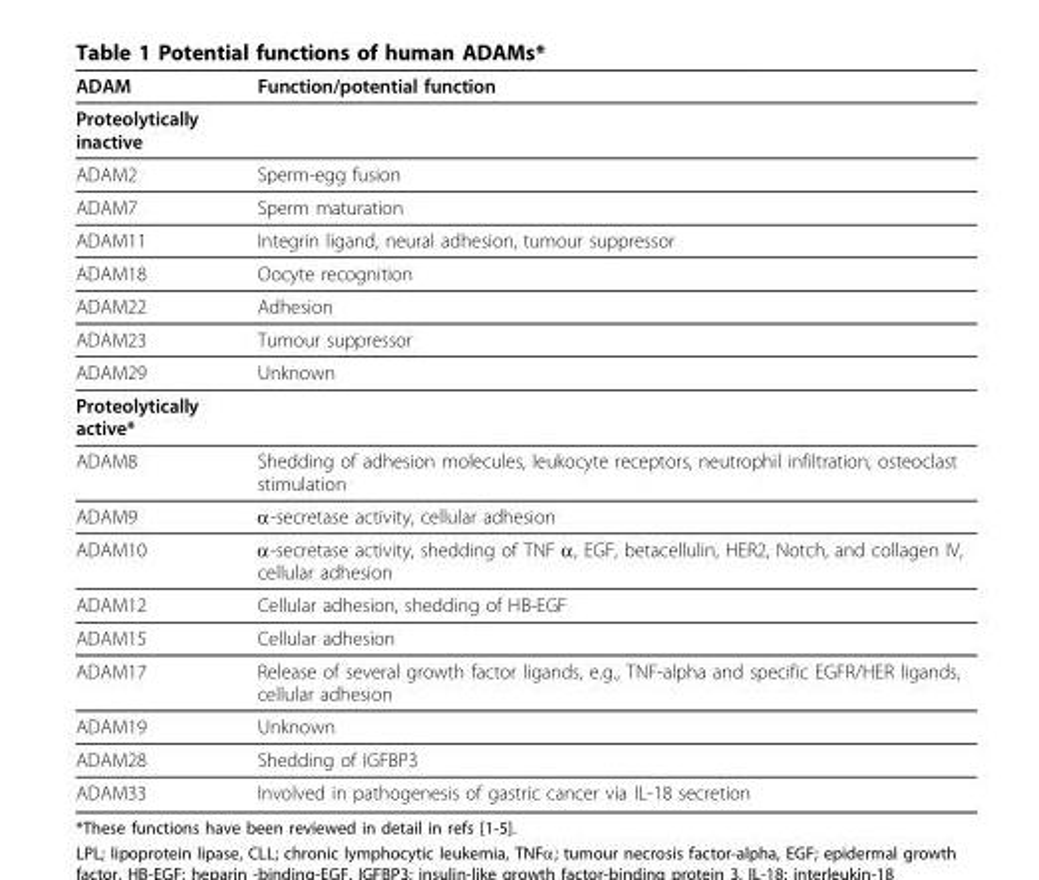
<table><thead><tr><td>ADAM</td><td>Function/potential function</td></tr></thead><tbody><tr><td colspan="2">Proteolytically inactive</td></tr><tr><td>ADAM2</td><td>Sperm-egg fusion</td></tr><tr><td>ADAM7</td><td>Sperm maturation</td></tr><tr><td>ADAM11</td><td>Integrin ligand, neural adhesion, tumour suppressor</td></tr><tr><td>ADAM18</td><td>Oocyte recognition</td></tr><tr><td>ADAM22</td><td>Adhesion</td></tr><tr><td>ADAM23</td><td>Tumour suppressor</td></tr><tr><td>ADAM29</td><td>Unknown</td></tr><tr><td colspan="2">Proteolytically active*</td></tr><tr><td>ADAM8</td><td>Shedding of adhesion molecules, leukocyte receptors, neutrophil infiltration, osteoclast stimulation</td></tr><tr><td>ADAM9</td><td>α-secretase activity, cellular adhesion</td></tr><tr><td>ADAM10</td><td>α-secretase activity, shedding of TNF α, EGF, betacellulin, HER2, Notch, and collagen IV, cellular adhesion</td></tr><tr><td>ADAM12</td><td>Cellular adhesion, shedding of HB-EGF</td></tr><tr><td>ADAM15</td><td>Cellular adhesion</td></tr><tr><td>ADAM17</td><td>Release of several growth factor ligands, e.g., TNF-alpha and specific EGFR/HER ligands, cellular adhesion</td></tr><tr><td>ADAM19</td><td>Unknown</td></tr><tr><td>ADAM28</td><td>Shedding of IGFBP3</td></tr><tr><td>ADAM33</td><td>Involved in pathogenesis of gastric cancer via IL-18 secretion</td></tr></tbody></table>